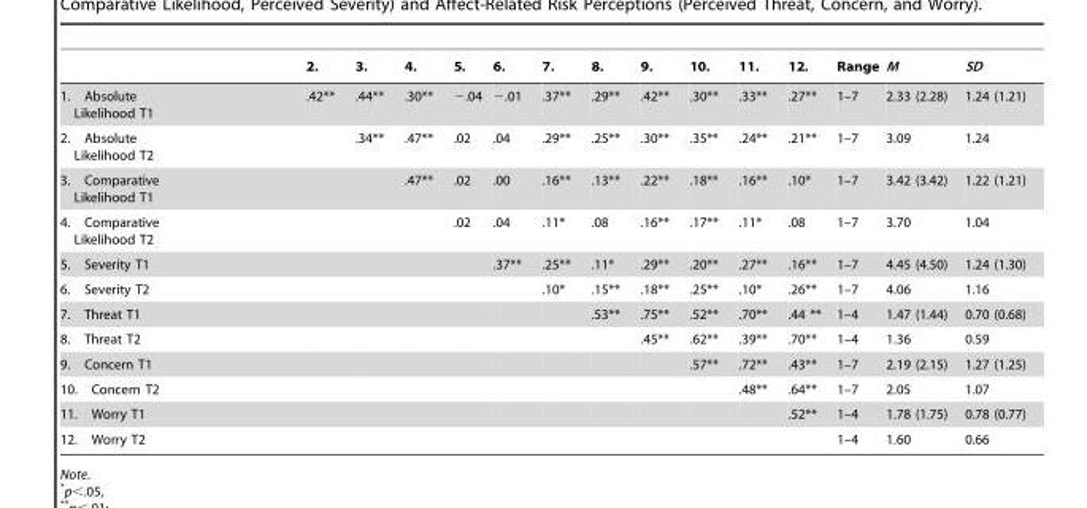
<table><thead><tr><td></td><td>2.</td><td>3.</td><td>4.</td><td>5.</td><td>6.</td><td>7.</td><td>8.</td><td>9.</td><td>10.</td><td>11.</td><td>12.</td><td>Range</td><td>M</td><td>SD</td></tr></thead><tbody><tr><td>1. Absolute Likelihood T1</td><td>.42**</td><td>.44**</td><td>.30**</td><td>−.04</td><td>−.01</td><td>.37**</td><td>.29**</td><td>.42**</td><td>.30**</td><td>.33**</td><td>.27**</td><td>1–7</td><td>2.33 (2.28)</td><td>1.24 (1.21)</td></tr><tr><td>2. Absolute Likelihood T2</td><td></td><td>.34**</td><td>.47**</td><td>.02</td><td>.04</td><td>.29**</td><td>.25**</td><td>.30**</td><td>.35**</td><td>.24**</td><td>.21**</td><td>1–7</td><td>3.09</td><td>1.24</td></tr><tr><td>3. Comparative Likelihood T1</td><td></td><td></td><td>.47**</td><td>.02</td><td>.00</td><td>.16**</td><td>.13**</td><td>.22**</td><td>.18**</td><td>.16**</td><td>.10*</td><td>1–7</td><td>3.42 (3.42)</td><td>1.22 (1.21)</td></tr><tr><td>4. Comparative Likelihood T2</td><td></td><td></td><td></td><td>.02</td><td>.04</td><td>.11*</td><td>.08</td><td>.16**</td><td>.17**</td><td>.11*</td><td>.08</td><td>1–7</td><td>3.70</td><td>1.04</td></tr><tr><td>5. Severity T1</td><td></td><td></td><td></td><td></td><td>.37**</td><td>.25**</td><td>.11*</td><td>.29**</td><td>.20**</td><td>.27**</td><td>.16**</td><td>1–7</td><td>4.45 (4.50)</td><td>1.24 (1.30)</td></tr><tr><td>6. Severity T2</td><td></td><td></td><td></td><td></td><td></td><td>.10*</td><td>.15**</td><td>.18**</td><td>.25**</td><td>.10*</td><td>.26**</td><td>1–7</td><td>4.06</td><td>1.16</td></tr><tr><td>7. Threat T1</td><td></td><td></td><td></td><td></td><td></td><td></td><td>.53**</td><td>.75**</td><td>.52**</td><td>.70**</td><td>.44 **</td><td>1–4</td><td>1.47 (1.44)</td><td>0.70 (0.68)</td></tr><tr><td>8. Threat T2</td><td></td><td></td><td></td><td></td><td></td><td></td><td></td><td>.45**</td><td>.62**</td><td>.39**</td><td>.70**</td><td>1–4</td><td>1.36</td><td>0.59</td></tr><tr><td>9. Concern T1</td><td></td><td></td><td></td><td></td><td></td><td></td><td></td><td></td><td>.57**</td><td>.72**</td><td>.43**</td><td>1–7</td><td>2.19 (2.15)</td><td>1.27 (1.25)</td></tr><tr><td>10. Concern T2</td><td></td><td></td><td></td><td></td><td></td><td></td><td></td><td></td><td></td><td>.48**</td><td>.64**</td><td>1–7</td><td>2.05</td><td>1.07</td></tr><tr><td>11. Worry T1</td><td></td><td></td><td></td><td></td><td></td><td></td><td></td><td></td><td></td><td></td><td>.52**</td><td>1–4</td><td>1.78 (1.75)</td><td>0.78 (0.77)</td></tr><tr><td>12. Worry T2</td><td></td><td></td><td></td><td></td><td></td><td></td><td></td><td></td><td></td><td></td><td></td><td>1–4</td><td>1.60</td><td>0.66</td></tr></tbody></table>